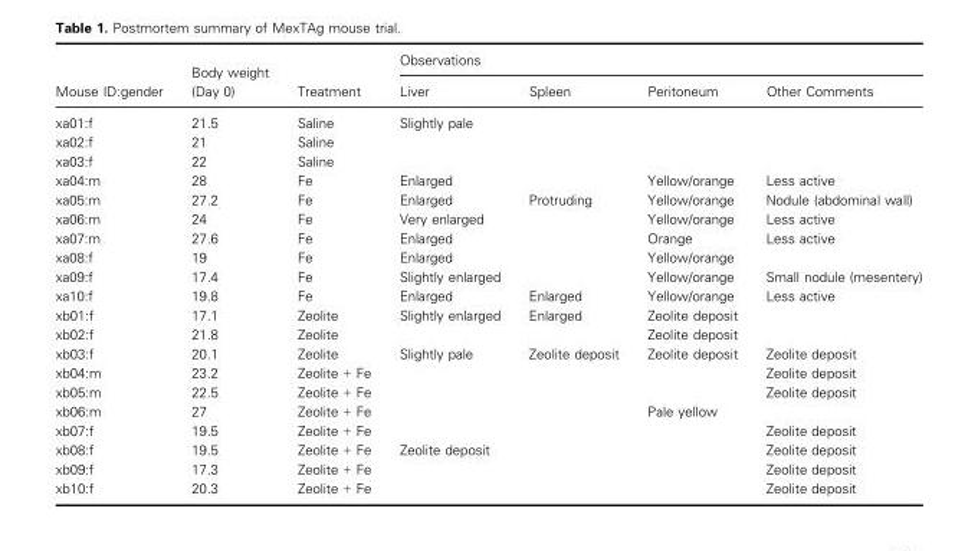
<table><thead><tr><td rowspan="2">Mouse ID:gender</td><td rowspan="2">Body weight (Day 0)</td><td rowspan="2">Treatment</td><td colspan="4">Observations</td></tr><tr><td>Liver</td><td>Spleen</td><td>Peritoneum</td><td>Other Comments</td></tr></thead><tbody><tr><td>xa01:f</td><td>21.5</td><td>Saline</td><td>Slightly pale</td><td></td><td></td><td></td></tr><tr><td>xa02:f</td><td>21</td><td>Saline</td><td></td><td></td><td></td><td></td></tr><tr><td>xa03:f</td><td>22</td><td>Saline</td><td></td><td></td><td></td><td></td></tr><tr><td>xa04:m</td><td>28</td><td>Fe</td><td>Enlarged</td><td></td><td>Yellow/orange</td><td>Less active</td></tr><tr><td>xa05:m</td><td>27.2</td><td>Fe</td><td>Enlarged</td><td>Protruding</td><td>Yellow/orange</td><td>Nodule (abdominal wall)</td></tr><tr><td>xa06:m</td><td>24</td><td>Fe</td><td>Very enlarged</td><td></td><td>Yellow/orange</td><td>Less active</td></tr><tr><td>xa07:m</td><td>27.6</td><td>Fe</td><td>Enlarged</td><td></td><td>Orange</td><td>Less active</td></tr><tr><td>xa08:f</td><td>19</td><td>Fe</td><td>Enlarged</td><td></td><td>Yellow/orange</td><td></td></tr><tr><td>xa09:f</td><td>17.4</td><td>Fe</td><td>Slightly enlarged</td><td></td><td>Yellow/orange</td><td>Small nodule (mesentery)</td></tr><tr><td>xa10:f</td><td>19.8</td><td>Fe</td><td>Enlarged</td><td>Enlarged</td><td>Yellow/orange</td><td>Less active</td></tr><tr><td>xb01:f</td><td>17.1</td><td>Zeolite</td><td>Slightly enlarged</td><td>Enlarged</td><td>Zeolite deposit</td><td></td></tr><tr><td>xb02:f</td><td>21.8</td><td>Zeolite</td><td></td><td></td><td>Zeolite deposit</td><td></td></tr><tr><td>xb03:f</td><td>20.1</td><td>Zeolite</td><td>Slightly pale</td><td>Zeolite deposit</td><td>Zeolite deposit</td><td>Zeolite deposit</td></tr><tr><td>xb04:m</td><td>23.2</td><td>Zeolite + Fe</td><td></td><td></td><td></td><td>Zeolite deposit</td></tr><tr><td>xb05:m</td><td>22.5</td><td>Zeolite + Fe</td><td></td><td></td><td></td><td>Zeolite deposit</td></tr><tr><td>xb06:m</td><td>27</td><td>Zeolite + Fe</td><td></td><td></td><td>Pale yellow</td><td></td></tr><tr><td>xb07:f</td><td>19.5</td><td>Zeolite + Fe</td><td></td><td></td><td></td><td>Zeolite deposit</td></tr><tr><td>xb08:f</td><td>19.5</td><td>Zeolite + Fe</td><td>Zeolite deposit</td><td></td><td></td><td>Zeolite deposit</td></tr><tr><td>xb09:f</td><td>17.3</td><td>Zeolite + Fe</td><td></td><td></td><td></td><td>Zeolite deposit</td></tr><tr><td>xb10:f</td><td>20.3</td><td>Zeolite + Fe</td><td></td><td></td><td></td><td>Zeolite deposit</td></tr></tbody></table>